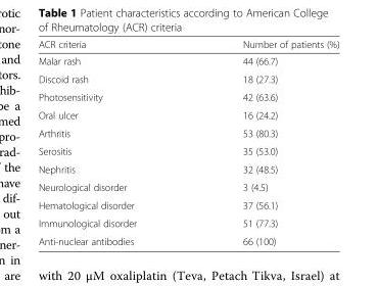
<table><thead><tr><td>ACR criteria</td><td>Number of patients (%)</td></tr></thead><tbody><tr><td>Malar rash</td><td>44 (66.7)</td></tr><tr><td>Discoid rash</td><td>18 (27.3)</td></tr><tr><td>Photosensitivity</td><td>42 (63.6)</td></tr><tr><td>Oral ulcer</td><td>16 (24.2)</td></tr><tr><td>Arthritis</td><td>53 (80.3)</td></tr><tr><td>Serositis</td><td>35 (53.0)</td></tr><tr><td>Nephritis</td><td>32 (48.5)</td></tr><tr><td>Neurological disorder</td><td>3 (4.5)</td></tr><tr><td>Hematological disorder</td><td>37 (56.1)</td></tr><tr><td>Immunological disorder</td><td>51 (77.3)</td></tr><tr><td>Anti-nuclear antibodies</td><td>66 (100)</td></tr></tbody></table>